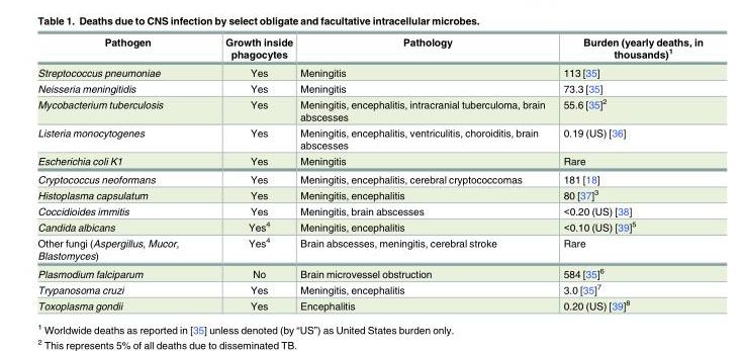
<table><thead><tr><td>Pathogen</td><td>Growth inside phagocytes</td><td>Pathology</td><td>Burden (yearly deaths, in thousands)<sup>1</sup></td></tr></thead><tbody><tr><td>Streptococcus pneumoniae</td><td>Yes</td><td>Meningitis</td><td>113 [35]</td></tr><tr><td>Neisseria meningitidis</td><td>Yes</td><td>Meningitis</td><td>73.3 [35]</td></tr><tr><td>Mycobacterium tuberculosis</td><td>Yes</td><td>Meningitis, encephalitis, intracranial tuberculoma, brain abscesses</td><td>55.6 [35]<sup>2</sup></td></tr><tr><td>Listeria monocytogenes</td><td>Yes</td><td>Meningitis, encephalitis, ventriculitis, choroiditis, brain abscesses</td><td>0.19 (US) [36]</td></tr><tr><td>Escherichia coli K1</td><td>Yes</td><td>Meningitis</td><td>Rare</td></tr><tr><td>Cryptococcus neoformans</td><td>Yes</td><td>Meningitis, encephalitis, cerebral cryptococcomas</td><td>181 [18]</td></tr><tr><td>Histoplasma capsulatum</td><td>Yes</td><td>Meningitis, encephalitis</td><td>80 [37]<sup>3</sup></td></tr><tr><td>Coccidioides immitis</td><td>Yes</td><td>Meningitis, brain abscesses</td><td>&lt;0.20 (US) [38]</td></tr><tr><td>Candida albicans</td><td>Yes<sup>4</sup></td><td>Meningitis, encephalitis</td><td>&lt;0.10 (US) [39]<sup>5</sup></td></tr><tr><td>Other fungi (Aspergillus, Mucor, Blastomyces)</td><td>Yes<sup>4</sup></td><td>Brain abscesses, meningitis, cerebral stroke</td><td>Rare</td></tr><tr><td>Plasmodium falciparum</td><td>No</td><td>Brain microvessel obstruction</td><td>584 [35]<sup>6</sup></td></tr><tr><td>Trypanosoma cruzi</td><td>Yes</td><td>Meningitis, encephalitis</td><td>3.0 [35]<sup>7</sup></td></tr><tr><td>Toxoplasma gondii</td><td>Yes</td><td>Encephalitis</td><td>0.20 (US) [39]<sup>8</sup></td></tr></tbody></table>